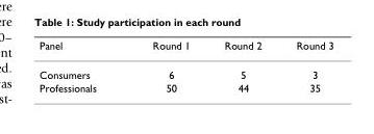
<table><thead><tr><td>Panel</td><td>Round 1</td><td>Round 2</td><td>Round 3</td></tr></thead><tbody><tr><td>Consumers</td><td>6</td><td>5</td><td>3</td></tr><tr><td>Professionals</td><td>50</td><td>44</td><td>35</td></tr></tbody></table>